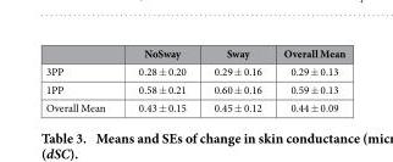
<table><thead><tr><td></td><td>NoSway</td><td>Sway</td><td>Overall Mean</td></tr></thead><tbody><tr><td>3PP</td><td>0.28 ± 0.20</td><td>0.29 ± 0.16</td><td>0.29 ± 0.13</td></tr><tr><td>1PP</td><td>0.58 ± 0.21</td><td>0.60 ± 0.16</td><td>0.59 ± 0.13</td></tr><tr><td>Overall Mean</td><td>0.43 ± 0.15</td><td>0.45 ± 0.12</td><td>0.44 ± 0.09</td></tr></tbody></table>